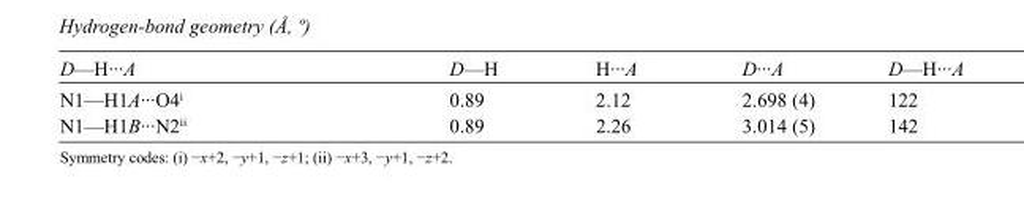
<table><tbody><tr><td>D—H···A</td><td>D—H</td><td>H···A</td><td>D···A</td><td>D—H···A</td></tr><tr><td>N1—H1A···O4<sup>i</sup></td><td>0.89</td><td>2.12</td><td>2.698 (4)</td><td>122</td></tr><tr><td>N1—H1B···N2<sup>ii</sup></td><td>0.89</td><td>2.26</td><td>3.014 (5)</td><td>142</td></tr></tbody></table>